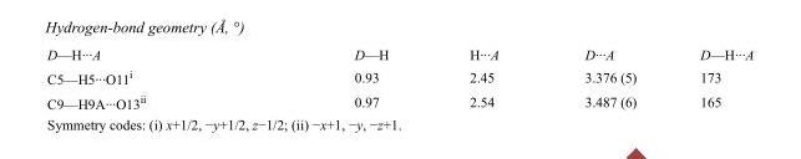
<table><tbody><tr><td>D—H···A</td><td>D—H</td><td>H···A</td><td>D···A</td><td>D—H···A</td></tr><tr><td>C5—H5···O11i</td><td>0.93</td><td>2.45</td><td>3.376 (5)</td><td>173</td></tr><tr><td>C9—H9A···O13ii</td><td>0.97</td><td>2.54</td><td>3.487 (6)</td><td>165</td></tr></tbody></table>